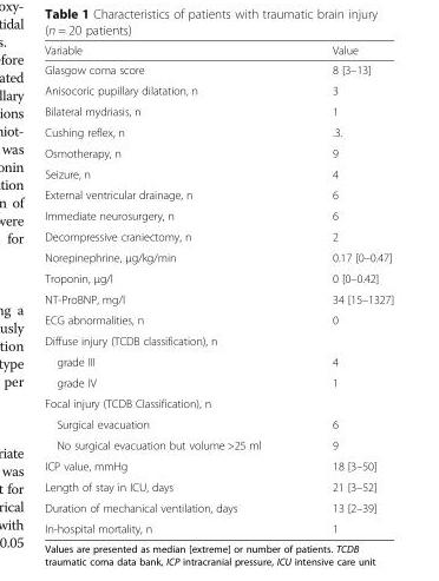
<table><thead><tr><td>Variable</td><td>Value</td></tr></thead><tbody><tr><td>Glasgow coma score</td><td>8 [3–13]</td></tr><tr><td>Anisocoric pupillary dilatation, n</td><td>3</td></tr><tr><td>Bilateral mydriasis, n</td><td>1</td></tr><tr><td>Cushing reflex, n</td><td>.3.</td></tr><tr><td>Osmotherapy, n</td><td>9</td></tr><tr><td>Seizure, n</td><td>4</td></tr><tr><td>External ventricular drainage, n</td><td>6</td></tr><tr><td>Immediate neurosurgery, n</td><td>6</td></tr><tr><td>Decompressive craniectomy, n</td><td>2</td></tr><tr><td>Norepinephrine, μg/kg/min</td><td>0.17 [0–0.47]</td></tr><tr><td>Troponin, μg/l</td><td>0 [0–0.42]</td></tr><tr><td>NT-ProBNP, mg/l</td><td>34 [15–1327]</td></tr><tr><td>ECG abnormalities, n</td><td>0</td></tr><tr><td colspan="2">Diffuse injury (TCDB classification), n</td></tr><tr><td>grade III</td><td>4</td></tr><tr><td>grade IV</td><td>1</td></tr><tr><td colspan="2">Focal injury (TCDB Classification), n</td></tr><tr><td>Surgical evacuation</td><td>6</td></tr><tr><td>No surgical evacuation but volume &gt;25 ml</td><td>9</td></tr><tr><td>ICP value, mmHg</td><td>18 [3–50]</td></tr><tr><td>Length of stay in ICU, days</td><td>21 [3–52]</td></tr><tr><td>Duration of mechanical ventilation, days</td><td>13 [2–39]</td></tr><tr><td>In-hospital mortality, n</td><td>1</td></tr></tbody></table>